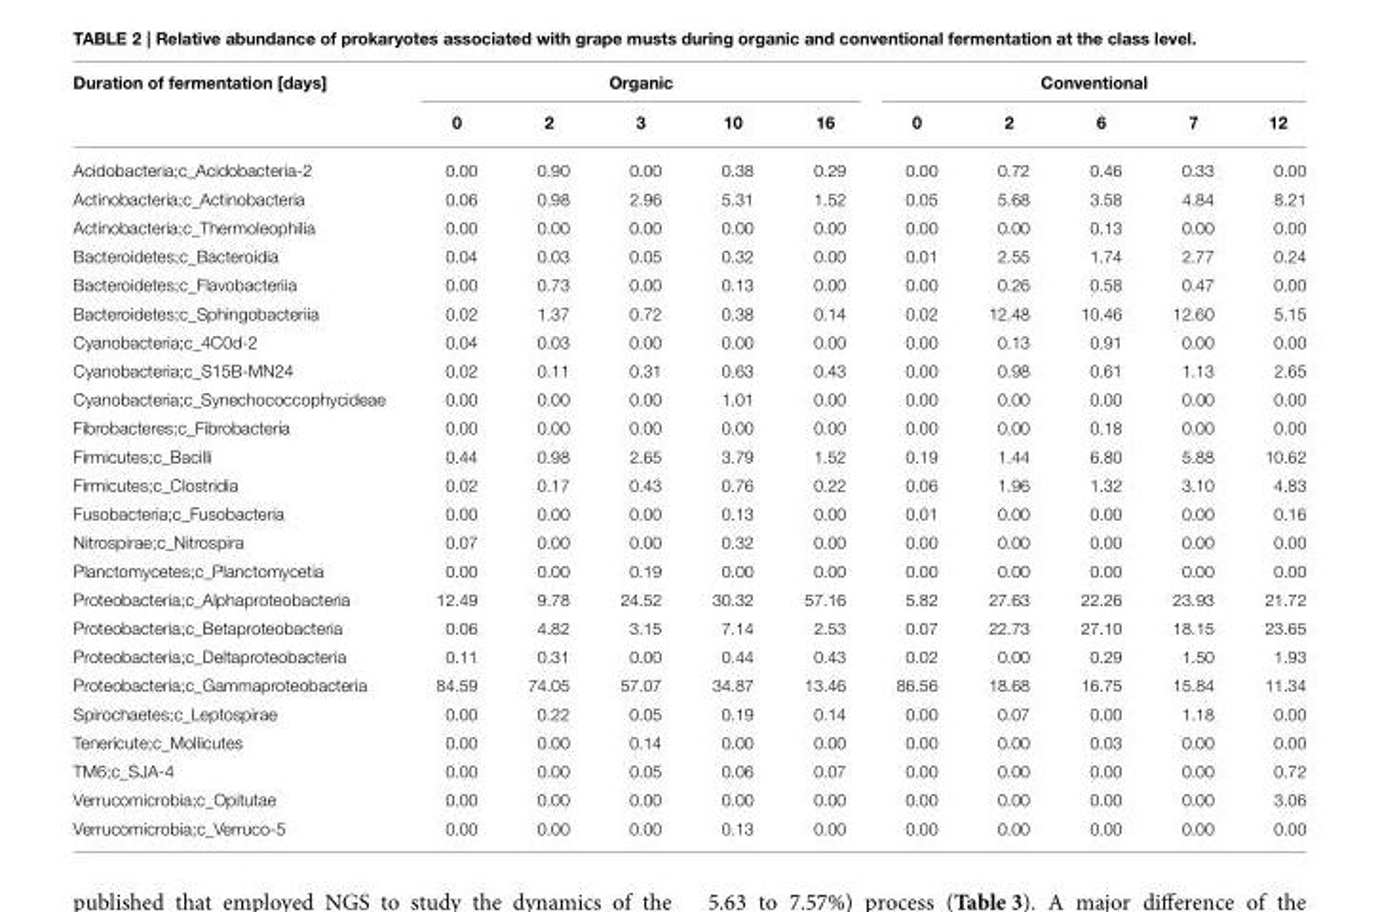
<table><thead><tr><td rowspan="2">Duration of fermentation [days]</td><td colspan="5">Organic</td><td colspan="5">Conventional</td></tr><tr><td>0</td><td>2</td><td>3</td><td>10</td><td>16</td><td>0</td><td>2</td><td>6</td><td>7</td><td>12</td></tr></thead><tbody><tr><td>Acidobacteria;c_Acidobacteria-2</td><td>0.00</td><td>0.90</td><td>0.00</td><td>0.38</td><td>0.29</td><td>0.00</td><td>0.72</td><td>0.46</td><td>0.33</td><td>0.00</td></tr><tr><td>Actinobacteria;c_Actinobacteria</td><td>0.06</td><td>0.98</td><td>2.96</td><td>5.31</td><td>1.52</td><td>0.05</td><td>5.68</td><td>3.58</td><td>4.84</td><td>8.21</td></tr><tr><td>Actinobacteria;c_Thermoleophilia</td><td>0.00</td><td>0.00</td><td>0.00</td><td>0.00</td><td>0.00</td><td>0.00</td><td>0.00</td><td>0.13</td><td>0.00</td><td>0.00</td></tr><tr><td>Bacteroidetes;c_Bacteroidia</td><td>0.04</td><td>0.03</td><td>0.05</td><td>0.32</td><td>0.00</td><td>0.01</td><td>2.55</td><td>1.74</td><td>2.77</td><td>0.24</td></tr><tr><td>Bacteroidetes;c_Flavobacteriia</td><td>0.00</td><td>0.73</td><td>0.00</td><td>0.13</td><td>0.00</td><td>0.00</td><td>0.26</td><td>0.58</td><td>0.47</td><td>0.00</td></tr><tr><td>Bacteroidetes;c_Sphingobacteriia</td><td>0.02</td><td>1.37</td><td>0.72</td><td>0.38</td><td>0.14</td><td>0.02</td><td>12.48</td><td>10.46</td><td>12.60</td><td>5.15</td></tr><tr><td>Cyanobacteria;c_4C0d-2</td><td>0.04</td><td>0.03</td><td>0.00</td><td>0.00</td><td>0.00</td><td>0.00</td><td>0.13</td><td>0.91</td><td>0.00</td><td>0.00</td></tr><tr><td>Cyanobacteria;c_S15B-MN24</td><td>0.02</td><td>0.11</td><td>0.31</td><td>0.63</td><td>0.43</td><td>0.00</td><td>0.98</td><td>0.61</td><td>1.13</td><td>2.65</td></tr><tr><td>Cyanobacteria;c_Synechococcophycideae</td><td>0.00</td><td>0.00</td><td>0.00</td><td>1.01</td><td>0.00</td><td>0.00</td><td>0.00</td><td>0.00</td><td>0.00</td><td>0.00</td></tr><tr><td>Fibrobacteres;c_Fibrobacteria</td><td>0.00</td><td>0.00</td><td>0.00</td><td>0.00</td><td>0.00</td><td>0.00</td><td>0.00</td><td>0.18</td><td>0.00</td><td>0.00</td></tr><tr><td>Firmicutes;c_Bacilli</td><td>0.44</td><td>0.98</td><td>2.65</td><td>3.79</td><td>1.52</td><td>0.19</td><td>1.44</td><td>6.80</td><td>5.88</td><td>10.62</td></tr><tr><td>Firmicutes;c_Clostridia</td><td>0.02</td><td>0.17</td><td>0.43</td><td>0.76</td><td>0.22</td><td>0.06</td><td>1.96</td><td>1.32</td><td>3.10</td><td>4.83</td></tr><tr><td>Fusobacteria;c_Fusobacteria</td><td>0.00</td><td>0.00</td><td>0.00</td><td>0.13</td><td>0.00</td><td>0.01</td><td>0.00</td><td>0.00</td><td>0.00</td><td>0.16</td></tr><tr><td>Nitrospirae;c_Nitrospira</td><td>0.07</td><td>0.00</td><td>0.00</td><td>0.32</td><td>0.00</td><td>0.00</td><td>0.00</td><td>0.00</td><td>0.00</td><td>0.00</td></tr><tr><td>Planctomycetes;c_Planctomycetia</td><td>0.00</td><td>0.00</td><td>0.19</td><td>0.00</td><td>0.00</td><td>0.00</td><td>0.00</td><td>0.00</td><td>0.00</td><td>0.00</td></tr><tr><td>Proteobacteria;c_Alphaproteobacteria</td><td>12.49</td><td>9.78</td><td>24.52</td><td>30.32</td><td>57.16</td><td>5.82</td><td>27.63</td><td>22.26</td><td>23.93</td><td>21.72</td></tr><tr><td>Proteobacteria;c_Betaproteobacteria</td><td>0.06</td><td>4.82</td><td>3.15</td><td>7.14</td><td>2.53</td><td>0.07</td><td>22.73</td><td>27.10</td><td>18.15</td><td>23.65</td></tr><tr><td>Proteobacteria;c_Deltaproteobacteria</td><td>0.11</td><td>0.31</td><td>0.00</td><td>0.44</td><td>0.43</td><td>0.02</td><td>0.00</td><td>0.29</td><td>1.50</td><td>1.93</td></tr><tr><td>Proteobacteria;c_Gammaproteobacteria</td><td>84.59</td><td>74.05</td><td>57.07</td><td>34.87</td><td>13.46</td><td>86.56</td><td>18.68</td><td>16.75</td><td>15.84</td><td>11.34</td></tr><tr><td>Spirochaetes;c_Leptospirae</td><td>0.00</td><td>0.22</td><td>0.05</td><td>0.19</td><td>0.14</td><td>0.00</td><td>0.07</td><td>0.00</td><td>1.18</td><td>0.00</td></tr><tr><td>Tenericute;c_Mollicutes</td><td>0.00</td><td>0.00</td><td>0.14</td><td>0.00</td><td>0.00</td><td>0.00</td><td>0.00</td><td>0.03</td><td>0.00</td><td>0.00</td></tr><tr><td>TM6;c_SJA-4</td><td>0.00</td><td>0.00</td><td>0.05</td><td>0.06</td><td>0.07</td><td>0.00</td><td>0.00</td><td>0.00</td><td>0.00</td><td>0.72</td></tr><tr><td>Verrucomicrobia;c_Opitutae</td><td>0.00</td><td>0.00</td><td>0.00</td><td>0.00</td><td>0.00</td><td>0.00</td><td>0.00</td><td>0.00</td><td>0.00</td><td>3.06</td></tr><tr><td>Verrucomicrobia;c_Verruco-5</td><td>0.00</td><td>0.00</td><td>0.00</td><td>0.13</td><td>0.00</td><td>0.00</td><td>0.00</td><td>0.00</td><td>0.00</td><td>0.00</td></tr></tbody></table>